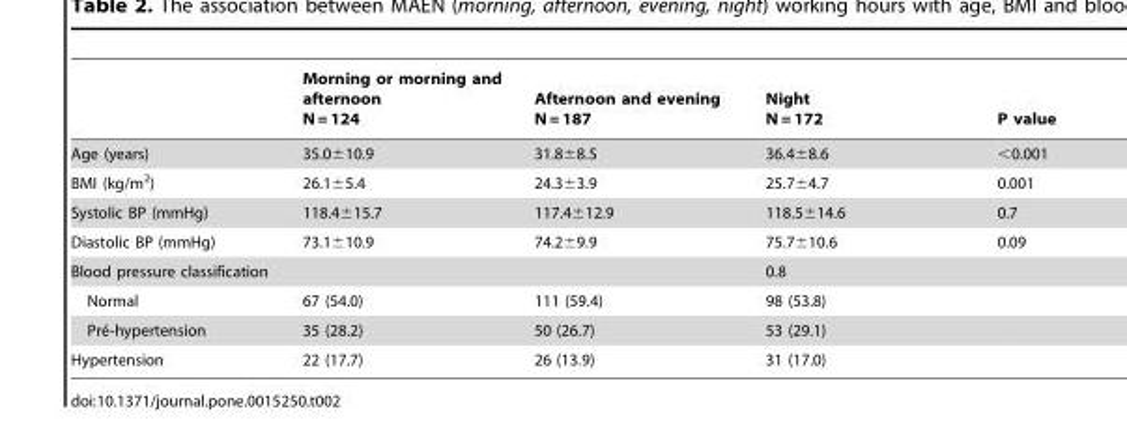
<table><thead><tr><td></td><td>Morning or morning and afternoon N = 124</td><td>Afternoon and evening N = 187</td><td>Night N = 172</td><td>P value</td></tr></thead><tbody><tr><td>Age (years)</td><td>35.0±10.9</td><td>31.8±8.5</td><td>36.4±8.6</td><td>&lt;0.001</td></tr><tr><td>BMI (kg/m<sup>2</sup>)</td><td>26.1±5.4</td><td>24.3±3.9</td><td>25.7±4.7</td><td>0.001</td></tr><tr><td>Systolic BP (mmHg)</td><td>118.4±15.7</td><td>117.4±12.9</td><td>118.5±14.6</td><td>0.7</td></tr><tr><td>Diastolic BP (mmHg)</td><td>73.1±10.9</td><td>74.2±9.9</td><td>75.7±10.6</td><td>0.09</td></tr><tr><td>Blood pressure classification</td><td></td><td></td><td>0.8</td><td></td></tr><tr><td>Normal</td><td>67 (54.0)</td><td>111 (59.4)</td><td>98 (53.8)</td><td></td></tr><tr><td>Pre´-hypertension</td><td>35 (28.2)</td><td>50 (26.7)</td><td>53 (29.1)</td><td></td></tr><tr><td>Hypertension</td><td>22 (17.7)</td><td>26 (13.9)</td><td>31 (17.0)</td><td></td></tr></tbody></table>